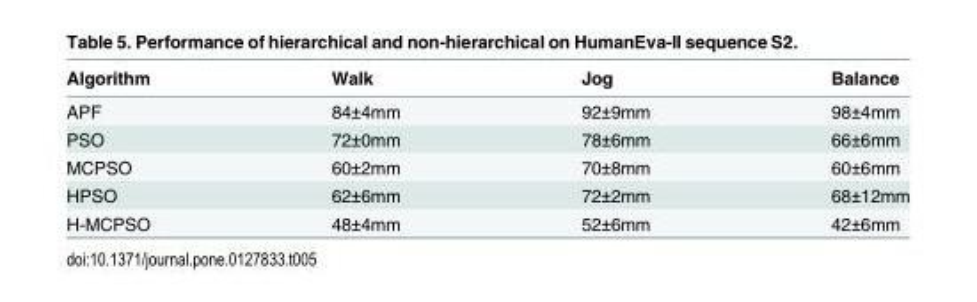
<table><thead><tr><td>Algorithm</td><td>Walk</td><td>Jog</td><td>Balance</td></tr></thead><tbody><tr><td>APF</td><td>84±4mm</td><td>92±9mm</td><td>98±4mm</td></tr><tr><td>PSO</td><td>72±0mm</td><td>78±6mm</td><td>66±6mm</td></tr><tr><td>MCPSO</td><td>60±2mm</td><td>70±8mm</td><td>60±6mm</td></tr><tr><td>HPSO</td><td>62±6mm</td><td>72±2mm</td><td>68±12mm</td></tr><tr><td>H-MCPSO</td><td>48±4mm</td><td>52±6mm</td><td>42±6mm</td></tr></tbody></table>